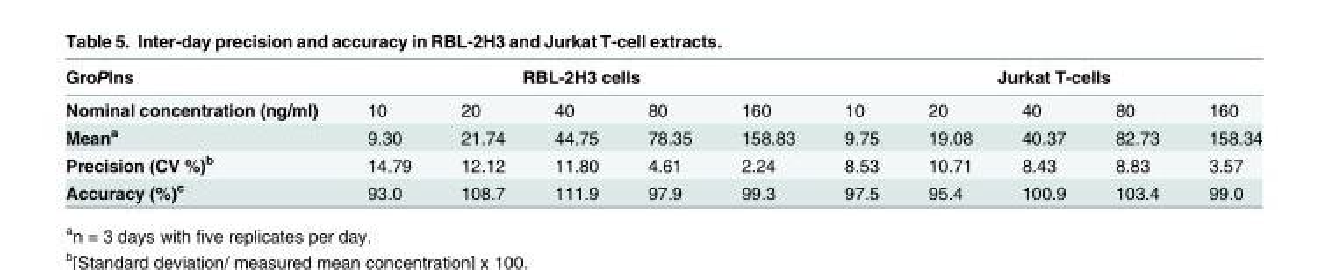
<table><thead><tr><td rowspan="2">GroPIns Nominal concentration (ng/ml)</td><td colspan="5">RBL-2H3 cells</td><td colspan="5">Jurkat T-cells</td></tr><tr><td>10</td><td>20</td><td>40</td><td>80</td><td>160</td><td>10</td><td>20</td><td>40</td><td>80</td><td>160</td></tr></thead><tbody><tr><td>Mean<sup>a</sup></td><td>9.30</td><td>21.74</td><td>44.75</td><td>78.35</td><td>158.83</td><td>9.75</td><td>19.08</td><td>40.37</td><td>82.73</td><td>158.34</td></tr><tr><td>Precision (CV %)<sup>b</sup></td><td>14.79</td><td>12.12</td><td>11.80</td><td>4.61</td><td>2.24</td><td>8.53</td><td>10.71</td><td>8.43</td><td>8.83</td><td>3.57</td></tr><tr><td>Accuracy (%)<sup>c</sup></td><td>93.0</td><td>108.7</td><td>111.9</td><td>97.9</td><td>99.3</td><td>97.5</td><td>95.4</td><td>100.9</td><td>103.4</td><td>99.0</td></tr></tbody></table>